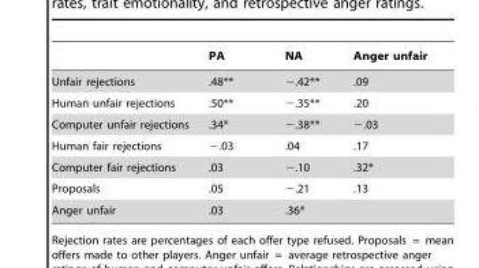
<table><thead><tr><td></td><td>PA</td><td>NA</td><td>Anger unfair</td></tr></thead><tbody><tr><td>Unfair rejections</td><td>.48**</td><td>−.42**</td><td>.09</td></tr><tr><td>Human unfair rejections</td><td>.50**</td><td>−.35**</td><td>.20</td></tr><tr><td>Computer unfair rejections</td><td>.34*</td><td>−.38**</td><td>−.03</td></tr><tr><td>Human fair rejections</td><td>−.03</td><td>.04</td><td>.17</td></tr><tr><td>Computer fair rejections</td><td>.03</td><td>−.10</td><td>.32*</td></tr><tr><td>Proposals</td><td>.05</td><td>−.21</td><td>.13</td></tr><tr><td>Anger unfair</td><td>.03</td><td>.36*</td><td></td></tr></tbody></table>